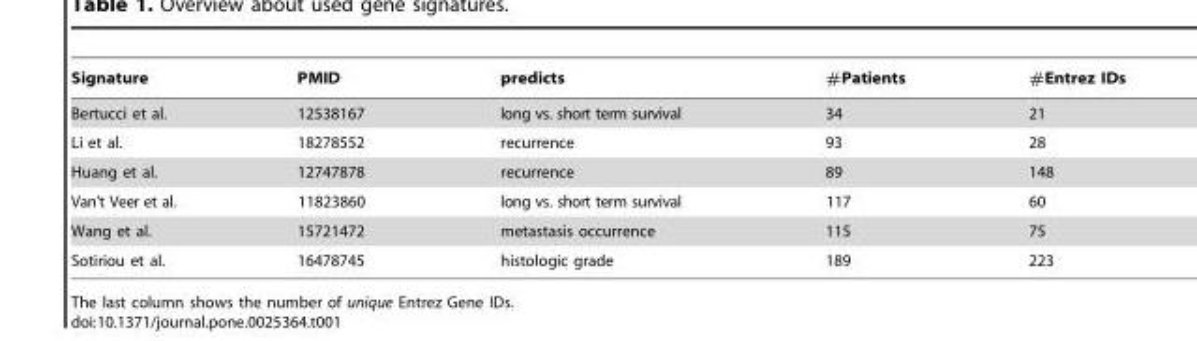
<table><thead><tr><td>Signature</td><td>PMID</td><td>predicts</td><td>#Patients</td><td>#Entrez IDs</td></tr></thead><tbody><tr><td>Bertucci et al.</td><td>12538167</td><td>long vs. short term survival</td><td>34</td><td>21</td></tr><tr><td>Li et al.</td><td>18278552</td><td>recurrence</td><td>93</td><td>28</td></tr><tr><td>Huang et al.</td><td>12747878</td><td>recurrence</td><td>89</td><td>148</td></tr><tr><td>Van’t Veer et al.</td><td>11823860</td><td>long vs. short term survival</td><td>117</td><td>60</td></tr><tr><td>Wang et al.</td><td>15721472</td><td>metastasis occurrence</td><td>115</td><td>75</td></tr><tr><td>Sotiriou et al.</td><td>16478745</td><td>histologic grade</td><td>189</td><td>223</td></tr></tbody></table>